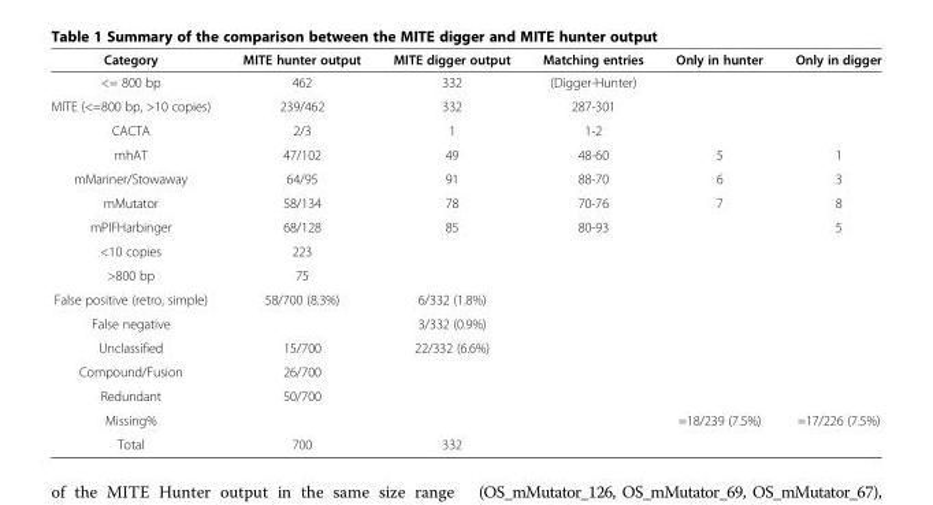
<table><thead><tr><td>Category</td><td>MITE hunter output</td><td>MITE digger output</td><td>Matching entries</td><td>Only in hunter</td><td>Only in digger</td></tr></thead><tbody><tr><td>&lt;= 800 bp</td><td>462</td><td>332</td><td>(Digger-Hunter)</td><td></td><td></td></tr><tr><td>MITE (&lt;=800 bp, &gt;10 copies)</td><td>239/462</td><td>332</td><td>287-301</td><td></td><td></td></tr><tr><td>CACTA</td><td>2/3</td><td>1</td><td>1-2</td><td></td><td></td></tr><tr><td>mhAT</td><td>47/102</td><td>49</td><td>48-60</td><td>5</td><td>1</td></tr><tr><td>mMariner/Stowaway</td><td>64/95</td><td>91</td><td>88-70</td><td>6</td><td>3</td></tr><tr><td>mMutator</td><td>58/134</td><td>78</td><td>70-76</td><td>7</td><td>8</td></tr><tr><td>mPIFHarbinger</td><td>68/128</td><td>85</td><td>80-93</td><td></td><td>5</td></tr><tr><td>&lt;10 copies</td><td>223</td><td></td><td></td><td></td><td></td></tr><tr><td>&gt;800 bp</td><td>75</td><td></td><td></td><td></td><td></td></tr><tr><td>False positive (retro, simple)</td><td>58/700 (8.3%)</td><td>6/332 (1.8%)</td><td></td><td></td><td></td></tr><tr><td>False negative</td><td></td><td>3/332 (0.9%)</td><td></td><td></td><td></td></tr><tr><td>Unclassified</td><td>15/700</td><td>22/332 (6.6%)</td><td></td><td></td><td></td></tr><tr><td>Compound/Fusion</td><td>26/700</td><td></td><td></td><td></td><td></td></tr><tr><td>Redundant</td><td>50/700</td><td></td><td></td><td></td><td></td></tr><tr><td>Missing%</td><td></td><td></td><td></td><td>=18/239 (7.5%)</td><td>=17/226 (7.5%)</td></tr><tr><td>Total</td><td>700</td><td>332</td><td></td><td></td><td></td></tr></tbody></table>